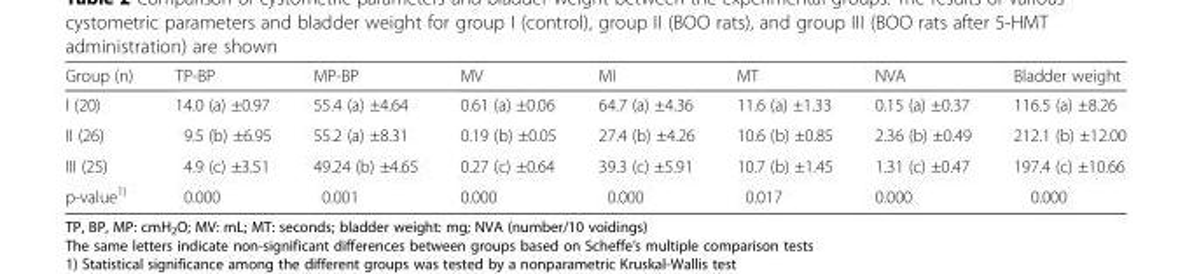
<table><thead><tr><td>Group (n)</td><td>TP-BP</td><td>MP-BP</td><td>MV</td><td>MI</td><td>MT</td><td>NVA</td><td>Bladder weight</td></tr></thead><tbody><tr><td>I (20)</td><td>14.0 (a) ±0.97</td><td>55.4 (a) ±4.64</td><td>0.61 (a) ±0.06</td><td>64.7 (a) ±4.36</td><td>11.6 (a) ±1.33</td><td>0.15 (a) ±0.37</td><td>116.5 (a) ±8.26</td></tr><tr><td>II (26)</td><td>9.5 (b) ±6.95</td><td>55.2 (a) ±8.31</td><td>0.19 (b) ±0.05</td><td>27.4 (b) ±4.26</td><td>10.6 (b) ±0.85</td><td>2.36 (b) ±0.49</td><td>212.1 (b) ±12.00</td></tr><tr><td>III (25)</td><td>4.9 (c) ±3.51</td><td>49.24 (b) ±4.65</td><td>0.27 (c) ±0.64</td><td>39.3 (c) ±5.91</td><td>10.7 (b) ±1.45</td><td>1.31 (c) ±0.47</td><td>197.4 (c) ±10.66</td></tr><tr><td>p-value<sup>1)</sup></td><td>0.000</td><td>0.001</td><td>0.000</td><td>0.000</td><td>0.017</td><td>0.000</td><td>0.000</td></tr></tbody></table>